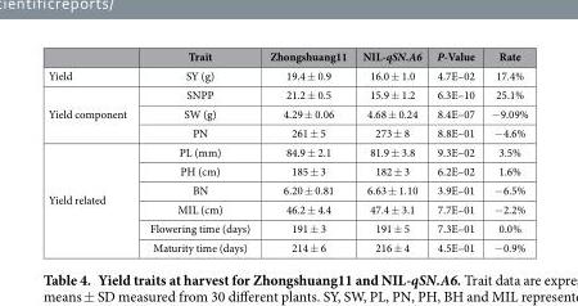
<table><thead><tr><td></td><td>Trait</td><td>Zhongshuang11</td><td>NIL-qSN.A6</td><td>P-Value</td><td>Rate</td></tr></thead><tbody><tr><td>Yield</td><td>SY (g)</td><td>19.4 ± 0.9</td><td>16.0 ± 1.0</td><td>4.7E–02</td><td>17.4%</td></tr><tr><td rowspan="3">Yield component</td><td>SNPP</td><td>21.2 ± 0.5</td><td>15.9 ± 1.2</td><td>6.3E–10</td><td>25.1%</td></tr><tr><td>SW (g)</td><td>4.29 ± 0.06</td><td>4.68 ± 0.24</td><td>8.4E–07</td><td>−9.09%</td></tr><tr><td>PN</td><td>261 ± 5</td><td>273 ± 8</td><td>8.8E–01</td><td>−4.6%</td></tr><tr><td rowspan="6">Yield related</td><td>PL (mm)</td><td>84.9 ± 2.1</td><td>81.9 ± 3.8</td><td>9.3E–02</td><td>3.5%</td></tr><tr><td>PH (cm)</td><td>185 ± 3</td><td>182 ± 3</td><td>6.2E–02</td><td>1.6%</td></tr><tr><td>BN</td><td>6.20 ± 0.81</td><td>6.63 ± 1.10</td><td>3.9E–01</td><td>−6.5%</td></tr><tr><td>MIL (cm)</td><td>46.2 ± 4.4</td><td>47.4 ± 3.1</td><td>7.7E–01</td><td>−2.2%</td></tr><tr><td>Flowering time (days)</td><td>191 ± 3</td><td>191 ± 5</td><td>7.3E–01</td><td>0.0%</td></tr><tr><td>Maturity time (days)</td><td>214 ± 6</td><td>216 ± 4</td><td>4.5E–01</td><td>−0.9%</td></tr></tbody></table>